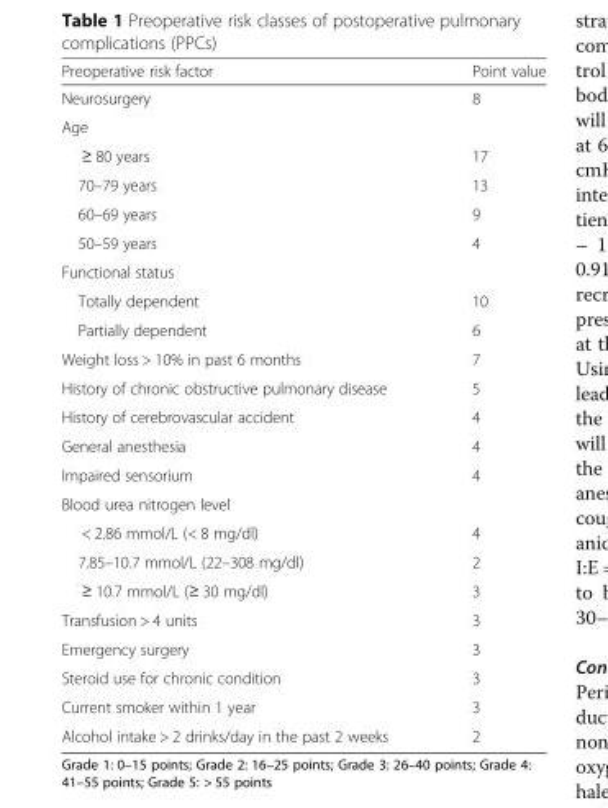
<table><thead><tr><td>Preoperative risk factor</td><td>Point value</td></tr></thead><tbody><tr><td>Neurosurgery</td><td>8</td></tr><tr><td colspan="2">Age</td></tr><tr><td>≥ 80 years</td><td>17</td></tr><tr><td>70–79 years</td><td>13</td></tr><tr><td>60–69 years</td><td>9</td></tr><tr><td>50–59 years</td><td>4</td></tr><tr><td colspan="2">Functional status</td></tr><tr><td>Totally dependent</td><td>10</td></tr><tr><td>Partially dependent</td><td>6</td></tr><tr><td>Weight loss &gt; 10% in past 6 months</td><td>7</td></tr><tr><td>History of chronic obstructive pulmonary disease</td><td>5</td></tr><tr><td>History of cerebrovascular accident</td><td>4</td></tr><tr><td>General anesthesia</td><td>4</td></tr><tr><td>Impaired sensorium</td><td>4</td></tr><tr><td colspan="2">Blood urea nitrogen level</td></tr><tr><td>&lt; 2.86 mmol/L (&lt; 8 mg/dl)</td><td>4</td></tr><tr><td>7.85–10.7 mmol/L (22–308 mg/dl)</td><td>2</td></tr><tr><td>≥ 10.7 mmol/L (≥ 30 mg/dl)</td><td>3</td></tr><tr><td>Transfusion &gt; 4 units</td><td>3</td></tr><tr><td>Emergency surgery</td><td>3</td></tr><tr><td>Steroid use for chronic condition</td><td>3</td></tr><tr><td>Current smoker within 1 year</td><td>3</td></tr><tr><td>Alcohol intake &gt; 2 drinks/day in the past 2 weeks</td><td>2</td></tr></tbody></table>